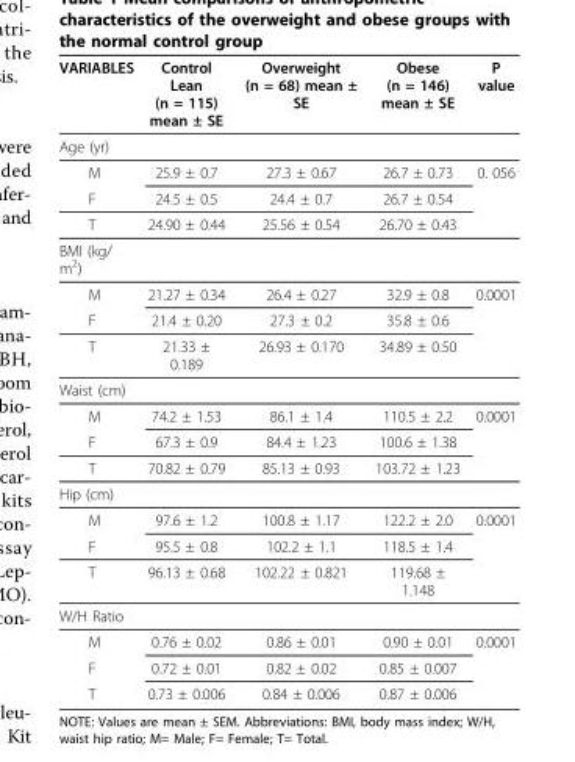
<table><thead><tr><td>VARIABLES</td><td>Control Lean (n = 115) mean ± SE</td><td>Overweight (n = 68) mean ± SE</td><td>Obese (n = 146) mean ± SE</td><td>P value</td></tr></thead><tbody><tr><td colspan="5">Age (yr)</td></tr><tr><td>M</td><td>25.9 ± 0.7</td><td>27.3 ± 0.67</td><td>26.7 ± 0.73</td><td>0. 056</td></tr><tr><td>F</td><td>24.5 ± 0.5</td><td>24.4 ± 0.7</td><td>26.7 ± 0.54</td><td></td></tr><tr><td>T</td><td>24.90 ± 0.44</td><td>25.56 ± 0.54</td><td>26.70 ± 0.43</td><td></td></tr><tr><td colspan="5">BMI (kg/ m<sup>2</sup>)</td></tr><tr><td>M</td><td>21.27 ± 0.34</td><td>26.4 ± 0.27</td><td>32.9 ± 0.8</td><td>0.0001</td></tr><tr><td>F</td><td>21.4 ± 0.20</td><td>27.3 ± 0.2</td><td>35.8 ± 0.6</td><td></td></tr><tr><td>T</td><td>21.33 ± 0.189</td><td>26.93 ± 0.170</td><td>34.89 ± 0.50</td><td></td></tr><tr><td colspan="5">Waist (cm)</td></tr><tr><td>M</td><td>74.2 ± 1.53</td><td>86.1 ± 1.4</td><td>110.5 ± 2.2</td><td>0.0001</td></tr><tr><td>F</td><td>67.3 ± 0.9</td><td>84.4 ± 1.23</td><td>100.6 ± 1.38</td><td></td></tr><tr><td>T</td><td>70.82 ± 0.79</td><td>85.13 ± 0.93</td><td>103.72 ± 1.23</td><td></td></tr><tr><td colspan="5">Hip (cm)</td></tr><tr><td>M</td><td>97.6 ± 1.2</td><td>100.8 ± 1.17</td><td>122.2 ± 2.0</td><td>0.0001</td></tr><tr><td>F</td><td>95.5 ± 0.8</td><td>102.2 ± 1.1</td><td>118.5 ± 1.4</td><td></td></tr><tr><td>T</td><td>96.13 ± 0.68</td><td>102.22 ± 0.821</td><td>119.68 ± 1.148</td><td></td></tr><tr><td colspan="5">W/H Ratio</td></tr><tr><td>M</td><td>0.76 ± 0.02</td><td>0.86 ± 0.01</td><td>0.90 ± 0.01</td><td>0.0001</td></tr><tr><td>F</td><td>0.72 ± 0.01</td><td>0.82 ± 0.02</td><td>0.85 ± 0.007</td><td></td></tr><tr><td>T</td><td>0.73 ± 0.006</td><td>0.84 ± 0.006</td><td>0.87 ± 0.006</td><td></td></tr></tbody></table>